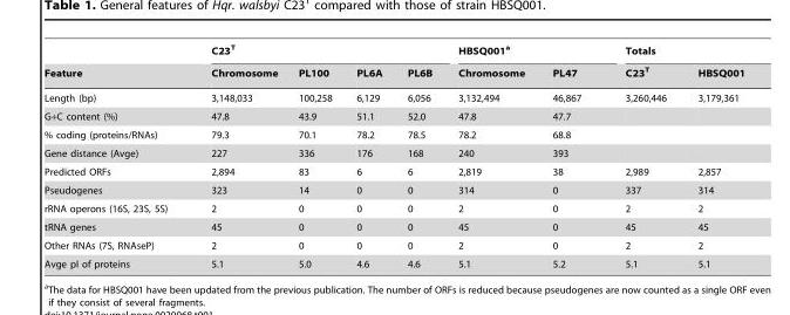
<table><thead><tr><td rowspan="2">Feature</td><td colspan="4">C23<sup>T</sup></td><td colspan="2">HBSQ001<sup>a</sup></td><td colspan="2">Totals</td></tr><tr><td>Chromosome</td><td>PL100</td><td>PL6A</td><td>PL6B</td><td>Chromosome</td><td>PL47</td><td>C23<sup>T</sup></td><td>HBSQ001</td></tr></thead><tbody><tr><td>Length (bp)</td><td>3,148,033</td><td>100,258</td><td>6,129</td><td>6,056</td><td>3,132,494</td><td>46,867</td><td>3,260,446</td><td>3,179,361</td></tr><tr><td>G+C content (%)</td><td>47.8</td><td>43.9</td><td>51.1</td><td>52.0</td><td>47.8</td><td>47.7</td><td></td><td></td></tr><tr><td>% coding (proteins/RNAs)</td><td>79.3</td><td>70.1</td><td>78.2</td><td>78.5</td><td>78.2</td><td>68.8</td><td></td><td></td></tr><tr><td>Gene distance (Avge)</td><td>227</td><td>336</td><td>176</td><td>168</td><td>240</td><td>393</td><td></td><td></td></tr><tr><td>Predicted ORFs</td><td>2,894</td><td>83</td><td>6</td><td>6</td><td>2,819</td><td>38</td><td>2,989</td><td>2,857</td></tr><tr><td>Pseudogenes</td><td>323</td><td>14</td><td>0</td><td>0</td><td>314</td><td>0</td><td>337</td><td>314</td></tr><tr><td>rRNA operons (16S, 23S, 5S)</td><td>2</td><td>0</td><td>0</td><td>0</td><td>2</td><td>0</td><td>2</td><td>2</td></tr><tr><td>tRNA genes</td><td>45</td><td>0</td><td>0</td><td>0</td><td>45</td><td>0</td><td>45</td><td>45</td></tr><tr><td>Other RNAs (7S, RNAseP)</td><td>2</td><td>0</td><td>0</td><td>0</td><td>2</td><td>0</td><td>2</td><td>2</td></tr><tr><td>Avge pI of proteins</td><td>5.1</td><td>5.0</td><td>4.6</td><td>4.6</td><td>5.1</td><td>5.2</td><td>5.1</td><td>5.1</td></tr></tbody></table>